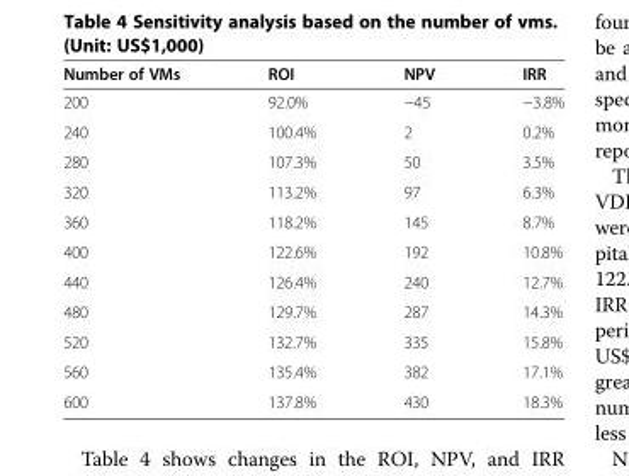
<table><thead><tr><td>Number of VMs</td><td>ROI</td><td>NPV</td><td>IRR</td></tr></thead><tbody><tr><td>200</td><td>92.0%</td><td>−45</td><td>−3.8%</td></tr><tr><td>240</td><td>100.4%</td><td>2</td><td>0.2%</td></tr><tr><td>280</td><td>107.3%</td><td>50</td><td>3.5%</td></tr><tr><td>320</td><td>113.2%</td><td>97</td><td>6.3%</td></tr><tr><td>360</td><td>118.2%</td><td>145</td><td>8.7%</td></tr><tr><td>400</td><td>122.6%</td><td>192</td><td>10.8%</td></tr><tr><td>440</td><td>126.4%</td><td>240</td><td>12.7%</td></tr><tr><td>480</td><td>129.7%</td><td>287</td><td>14.3%</td></tr><tr><td>520</td><td>132.7%</td><td>335</td><td>15.8%</td></tr><tr><td>560</td><td>135.4%</td><td>382</td><td>17.1%</td></tr><tr><td>600</td><td>137.8%</td><td>430</td><td>18.3%</td></tr></tbody></table>